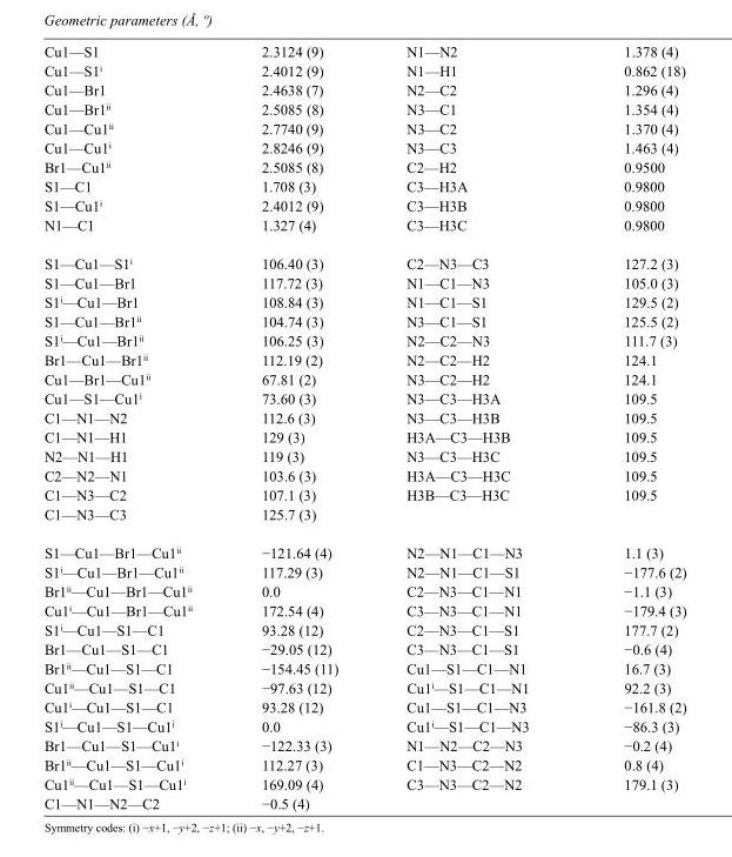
<table><tbody><tr><td>Cu1—S1</td><td>2.3124 (9)</td><td>N1—N2</td><td>1.378 (4)</td></tr><tr><td>Cu1—S1<sup>i</sup></td><td>2.4012 (9)</td><td>N1—H1</td><td>0.862 (18)</td></tr><tr><td>Cu1—Br1</td><td>2.4638 (7)</td><td>N2—C2</td><td>1.296 (4)</td></tr><tr><td>Cu1—Br1<sup>ii</sup></td><td>2.5085 (8)</td><td>N3—C1</td><td>1.354 (4)</td></tr><tr><td>Cu1—Cu1<sup>ii</sup></td><td>2.7740 (9)</td><td>N3—C2</td><td>1.370 (4)</td></tr><tr><td>Cu1—Cu1<sup>i</sup></td><td>2.8246 (9)</td><td>N3—C3</td><td>1.463 (4)</td></tr><tr><td>Br1—Cu1<sup>ii</sup></td><td>2.5085 (8)</td><td>C2—H2</td><td>0.9500</td></tr><tr><td>S1—C1</td><td>1.708 (3)</td><td>C3—H3A</td><td>0.9800</td></tr><tr><td>S1—Cu1<sup>i</sup></td><td>2.4012 (9)</td><td>C3—H3B</td><td>0.9800</td></tr><tr><td>N1—C1</td><td>1.327 (4)</td><td>C3—H3C</td><td>0.9800</td></tr><tr><td>S1—Cu1—S1<sup>i</sup></td><td>106.40 (3)</td><td>C2—N3—C3</td><td>127.2 (3)</td></tr><tr><td>S1—Cu1—Br1</td><td>117.72 (3)</td><td>N1—C1—N3</td><td>105.0 (3)</td></tr><tr><td>S1<sup>i</sup>—Cu1—Br1</td><td>108.84 (3)</td><td>N1—C1—S1</td><td>129.5 (2)</td></tr><tr><td>S1—Cu1—Br1<sup>ii</sup></td><td>104.74 (3)</td><td>N3—C1—S1</td><td>125.5 (2)</td></tr><tr><td>S1<sup>i</sup>—Cu1—Br1<sup>ii</sup></td><td>106.25 (3)</td><td>N2—C2—N3</td><td>111.7 (3)</td></tr><tr><td>Br1—Cu1—Br1<sup>ii</sup></td><td>112.19 (2)</td><td>N2—C2—H2</td><td>124.1</td></tr><tr><td>Cu1—Br1—Cu1<sup>ii</sup></td><td>67.81 (2)</td><td>N3—C2—H2</td><td>124.1</td></tr><tr><td>Cu1—S1—Cu1<sup>i</sup></td><td>73.60 (3)</td><td>N3—C3—H3A</td><td>109.5</td></tr><tr><td>C1—N1—N2</td><td>112.6 (3)</td><td>N3—C3—H3B</td><td>109.5</td></tr><tr><td>C1—N1—H1</td><td>129 (3)</td><td>H3A—C3—H3B</td><td>109.5</td></tr><tr><td>N2—N1—H1</td><td>119 (3)</td><td>N3—C3—H3C</td><td>109.5</td></tr><tr><td>C2—N2—N1</td><td>103.6 (3)</td><td>H3A—C3—H3C</td><td>109.5</td></tr><tr><td>C1—N3—C2</td><td>107.1 (3)</td><td>H3B—C3—H3C</td><td>109.5</td></tr><tr><td>C1—N3—C3</td><td>125.7 (3)</td><td></td><td></td></tr><tr><td>S1—Cu1—Br1—Cu1<sup>ii</sup></td><td>−121.64 (4)</td><td>N2—N1—C1—N3</td><td>1.1 (3)</td></tr><tr><td>S1<sup>i</sup>—Cu1—Br1—Cu1<sup>ii</sup></td><td>117.29 (3)</td><td>N2—N1—C1—S1</td><td>−177.6 (2)</td></tr><tr><td>Br1<sup>ii</sup>—Cu1—Br1—Cu1<sup>ii</sup></td><td>0.0</td><td>C2—N3—C1—N1</td><td>−1.1 (3)</td></tr><tr><td>Cu1<sup>i</sup>—Cu1—Br1—Cu1<sup>ii</sup></td><td>172.54 (4)</td><td>C3—N3—C1—N1</td><td>−179.4 (3)</td></tr><tr><td>S1<sup>i</sup>—Cu1—S1—C1</td><td>93.28 (12)</td><td>C2—N3—C1—S1</td><td>177.7 (2)</td></tr><tr><td>Br1—Cu1—S1—C1</td><td>−29.05 (12)</td><td>C3—N3—C1—S1</td><td>−0.6 (4)</td></tr><tr><td>Br1<sup>ii</sup>—Cu1—S1—C1</td><td>−154.45 (11)</td><td>Cu1—S1—C1—N1</td><td>16.7 (3)</td></tr><tr><td>Cu1<sup>ii</sup>—Cu1—S1—C1</td><td>−97.63 (12)</td><td>Cu1<sup>i</sup>—S1—C1—N1</td><td>92.2 (3)</td></tr><tr><td>Cu1<sup>i</sup>—Cu1—S1—C1</td><td>93.28 (12)</td><td>Cu1—S1—C1—N3</td><td>−161.8 (2)</td></tr><tr><td>S1<sup>i</sup>—Cu1—S1—Cu1<sup>i</sup></td><td>0.0</td><td>Cu1<sup>i</sup>—S1—C1—N3</td><td>−86.3 (3)</td></tr><tr><td>Br1—Cu1—S1—Cu1<sup>i</sup></td><td>−122.33 (3)</td><td>N1—N2—C2—N3</td><td>−0.2 (4)</td></tr><tr><td>Br1<sup>ii</sup>—Cu1—S1—Cu1<sup>i</sup></td><td>112.27 (3)</td><td>C1—N3—C2—N2</td><td>0.8 (4)</td></tr><tr><td>Cu1<sup>ii</sup>—Cu1—S1—Cu1<sup>i</sup></td><td>169.09 (4)</td><td>C3—N3—C2—N2</td><td>179.1 (3)</td></tr><tr><td>C1—N1—N2—C2</td><td>−0.5 (4)</td><td></td><td></td></tr></tbody></table>